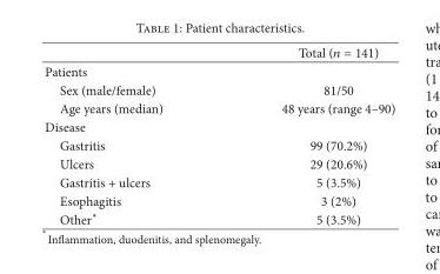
<table><thead><tr><td></td><td>Total (𝑛𝑛 𝑛 𝑛𝑛𝑛)</td></tr></thead><tbody><tr><td colspan="2">Patients</td></tr><tr><td>Sex (male/female)</td><td>81/50</td></tr><tr><td>Age years (median)</td><td>48 years (range 4–90)</td></tr><tr><td colspan="2">Disease</td></tr><tr><td>Gastritis</td><td>99 (70.2%)</td></tr><tr><td>Ulcers</td><td>29 (20.6%)</td></tr><tr><td>Gastritis + ulcers</td><td>5 (3.5%)</td></tr><tr><td>Esophagitis</td><td>3 (2%)</td></tr><tr><td>Other∗</td><td>5 (3.5%)</td></tr></tbody></table>